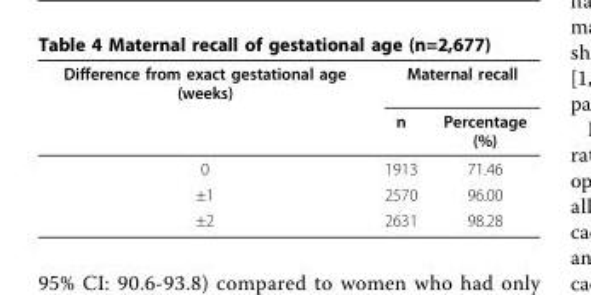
<table><thead><tr><td rowspan="2">Difference from exact gestational age (weeks)</td><td colspan="2">Maternal recall</td></tr><tr><td>n</td><td>Percentage (%)</td></tr></thead><tbody><tr><td>0</td><td>1913</td><td>71.46</td></tr><tr><td>±1</td><td>2570</td><td>96.00</td></tr><tr><td>±2</td><td>2631</td><td>98.28</td></tr></tbody></table>